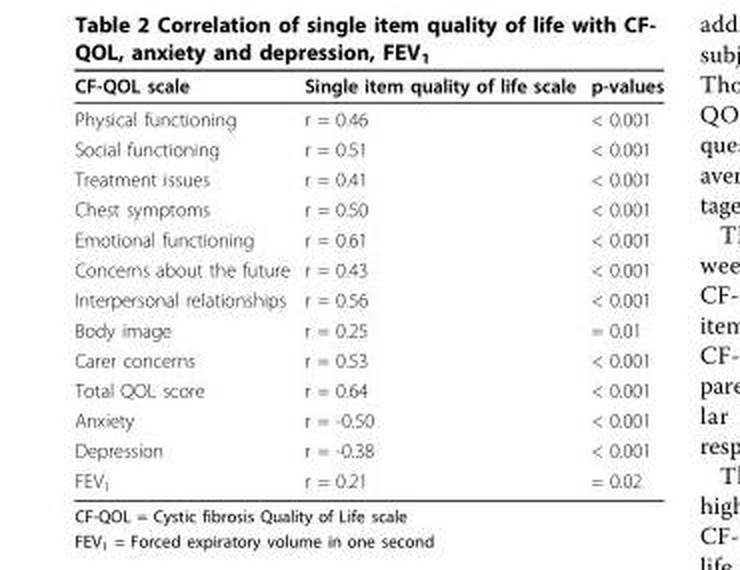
<table><thead><tr><td>CF-QOL scale</td><td>Single item quality of life scale</td><td>p-values</td></tr></thead><tbody><tr><td>Physical functioning</td><td>r = 0.46</td><td>&lt; 0.001</td></tr><tr><td>Social functioning</td><td>r = 0.51</td><td>&lt; 0.001</td></tr><tr><td>Treatment issues</td><td>r = 0.41</td><td>&lt; 0.001</td></tr><tr><td>Chest symptoms</td><td>r = 0.50</td><td>&lt; 0.001</td></tr><tr><td>Emotional functioning</td><td>r = 0.61</td><td>&lt; 0.001</td></tr><tr><td>Concerns about the future</td><td>r = 0.43</td><td>&lt; 0.001</td></tr><tr><td>Interpersonal relationships</td><td>r = 0.56</td><td>&lt; 0.001</td></tr><tr><td>Body image</td><td>r = 0.25</td><td>= 0.01</td></tr><tr><td>Carer concerns</td><td>r = 0.53</td><td>&lt; 0.001</td></tr><tr><td>Total QOL score</td><td>r = 0.64</td><td>&lt; 0.001</td></tr><tr><td>Anxiety</td><td>r = -0.50</td><td>&lt; 0.001</td></tr><tr><td>Depression</td><td>r = -0.38</td><td>&lt; 0.001</td></tr><tr><td>FEV<sub>1</sub></td><td>r = 0.21</td><td>= 0.02</td></tr></tbody></table>